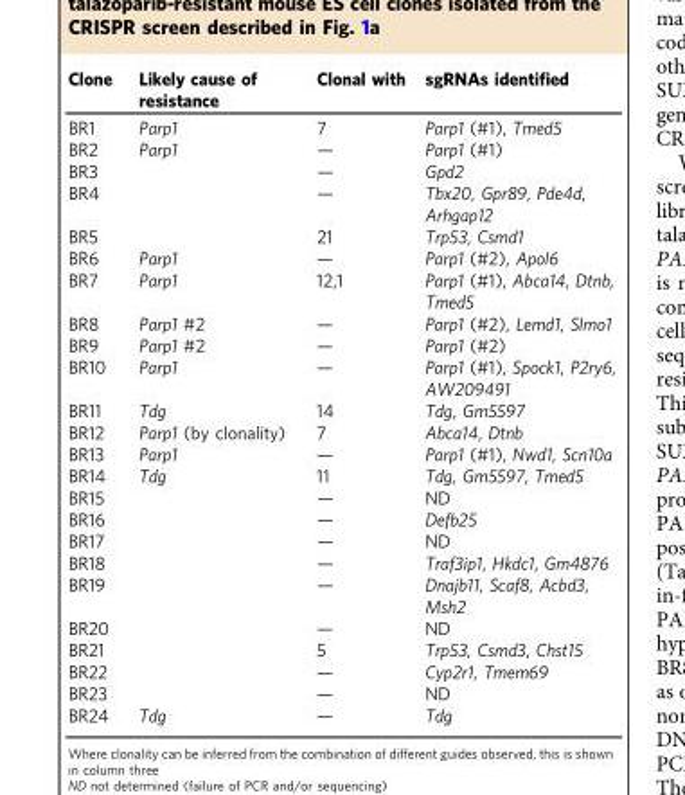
<table><thead><tr><td>Clone</td><td>Likely cause of resistance</td><td>Clonal with</td><td>sgRNAs identified</td></tr></thead><tbody><tr><td>BR1</td><td>Parp1</td><td>7</td><td>Parp1 (#1), Tmed5</td></tr><tr><td>BR2</td><td>Parp1</td><td>—</td><td>Parp1 (#1)</td></tr><tr><td>BR3</td><td></td><td>—</td><td>Gpd2</td></tr><tr><td>BR4</td><td></td><td>—</td><td>Tbx20, Gpr89, Pde4d, Arhgap12</td></tr><tr><td>BR5</td><td></td><td>21</td><td>Trp53, Csmd1</td></tr><tr><td>BR6</td><td>Parp1</td><td>—</td><td>Parp1 (#2), Apol6</td></tr><tr><td>BR7</td><td>Parp1</td><td>12,1</td><td>Parp1 (#1), Abca14, Dtnb, Tmed5</td></tr><tr><td>BR8</td><td>Parp1 #2</td><td>—</td><td>Parp1 (#2), Lemd1, Slmo1</td></tr><tr><td>BR9</td><td>Parp1 #2</td><td>—</td><td>Parp1 (#2)</td></tr><tr><td>BR10</td><td>Parp1</td><td>—</td><td>Parp1 (#1), Spock1, P2ry6, AW209491</td></tr><tr><td>BR11</td><td>Tdg</td><td>14</td><td>Tdg, Gm5597</td></tr><tr><td>BR12</td><td>Parp1 (by clonality)</td><td>7</td><td>Abca14, Dtnb</td></tr><tr><td>BR13</td><td>Parp1</td><td>—</td><td>Parp1 (#1), Nwd1, Scn10a</td></tr><tr><td>BR14</td><td>Tdg</td><td>11</td><td>Tdg, Gm5597, Tmed5</td></tr><tr><td>BR15</td><td></td><td>—</td><td>ND</td></tr><tr><td>BR16</td><td></td><td>—</td><td>Defb25</td></tr><tr><td>BR17</td><td></td><td>—</td><td>ND</td></tr><tr><td>BR18</td><td></td><td>—</td><td>Traf3ip1, Hkdc1, Gm4876</td></tr><tr><td>BR19</td><td></td><td>—</td><td>Dnajb11, Scaf8, Acbd3, Msh2</td></tr><tr><td>BR20</td><td></td><td>—</td><td>ND</td></tr><tr><td>BR21</td><td></td><td>5</td><td>Trp53, Csmd3, Chst15</td></tr><tr><td>BR22</td><td></td><td>—</td><td>Cyp2r1, Tmem69</td></tr><tr><td>BR23</td><td></td><td>—</td><td>ND</td></tr><tr><td>BR24</td><td>Tdg</td><td>—</td><td>Tdg</td></tr></tbody></table>